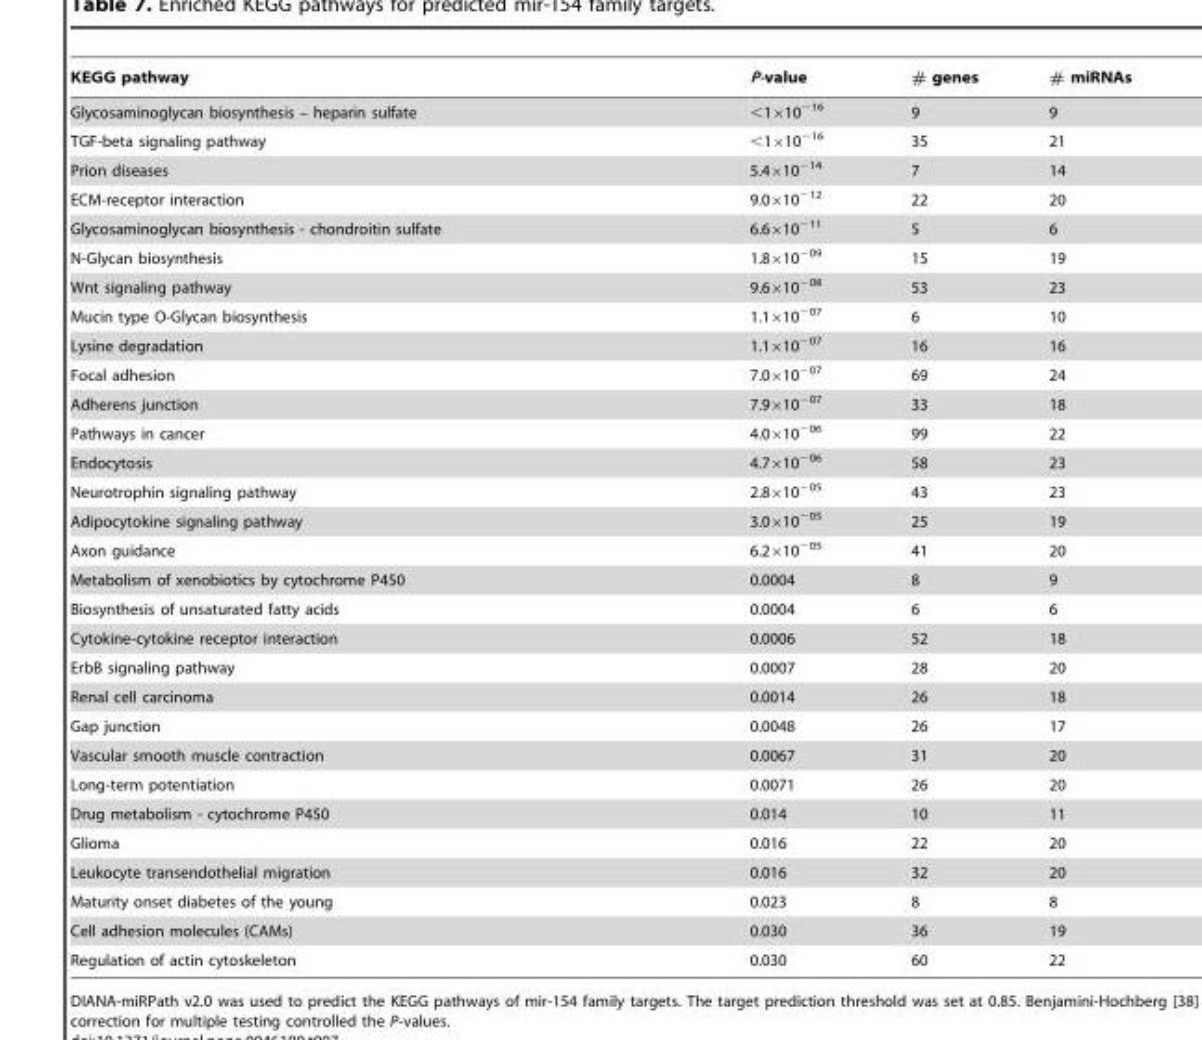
<table><thead><tr><td>KEGG pathway</td><td>P-value</td><td># genes</td><td># miRNAs</td></tr></thead><tbody><tr><td>Glycosaminoglycan biosynthesis – heparin sulfate</td><td>&lt;1×10<sup>−16</sup></td><td>9</td><td>9</td></tr><tr><td>TGF-beta signaling pathway</td><td>&lt;1×10<sup>−16</sup></td><td>35</td><td>21</td></tr><tr><td>Prion diseases</td><td>5.4×10<sup>−14</sup></td><td>7</td><td>14</td></tr><tr><td>ECM-receptor interaction</td><td>9.0×10<sup>−12</sup></td><td>22</td><td>20</td></tr><tr><td>Glycosaminoglycan biosynthesis - chondroitin sulfate</td><td>6.6×10<sup>−11</sup></td><td>5</td><td>6</td></tr><tr><td>N-Glycan biosynthesis</td><td>1.8×10<sup>−09</sup></td><td>15</td><td>19</td></tr><tr><td>Wnt signaling pathway</td><td>9.6×10<sup>−08</sup></td><td>53</td><td>23</td></tr><tr><td>Mucin type O-Glycan biosynthesis</td><td>1.1×10<sup>−07</sup></td><td>6</td><td>10</td></tr><tr><td>Lysine degradation</td><td>1.1×10<sup>−07</sup></td><td>16</td><td>16</td></tr><tr><td>Focal adhesion</td><td>7.0×10<sup>−07</sup></td><td>69</td><td>24</td></tr><tr><td>Adherens junction</td><td>7.9×10<sup>−07</sup></td><td>33</td><td>18</td></tr><tr><td>Pathways in cancer</td><td>4.0×10<sup>−06</sup></td><td>99</td><td>22</td></tr><tr><td>Endocytosis</td><td>4.7×10<sup>−06</sup></td><td>58</td><td>23</td></tr><tr><td>Neurotrophin signaling pathway</td><td>2.8×10<sup>−05</sup></td><td>43</td><td>23</td></tr><tr><td>Adipocytokine signaling pathway</td><td>3.0×10<sup>−05</sup></td><td>25</td><td>19</td></tr><tr><td>Axon guidance</td><td>6.2×10<sup>−05</sup></td><td>41</td><td>20</td></tr><tr><td>Metabolism of xenobiotics by cytochrome P450</td><td>0.0004</td><td>8</td><td>9</td></tr><tr><td>Biosynthesis of unsaturated fatty acids</td><td>0.0004</td><td>6</td><td>6</td></tr><tr><td>Cytokine-cytokine receptor interaction</td><td>0.0006</td><td>52</td><td>18</td></tr><tr><td>ErbB signaling pathway</td><td>0.0007</td><td>28</td><td>20</td></tr><tr><td>Renal cell carcinoma</td><td>0.0014</td><td>26</td><td>18</td></tr><tr><td>Gap junction</td><td>0.0048</td><td>26</td><td>17</td></tr><tr><td>Vascular smooth muscle contraction</td><td>0.0067</td><td>31</td><td>20</td></tr><tr><td>Long-term potentiation</td><td>0.0071</td><td>26</td><td>20</td></tr><tr><td>Drug metabolism - cytochrome P450</td><td>0.014</td><td>10</td><td>11</td></tr><tr><td>Glioma</td><td>0.016</td><td>22</td><td>20</td></tr><tr><td>Leukocyte transendothelial migration</td><td>0.016</td><td>32</td><td>20</td></tr><tr><td>Maturity onset diabetes of the young</td><td>0.023</td><td>8</td><td>8</td></tr><tr><td>Cell adhesion molecules (CAMs)</td><td>0.030</td><td>36</td><td>19</td></tr><tr><td>Regulation of actin cytoskeleton</td><td>0.030</td><td>60</td><td>22</td></tr></tbody></table>